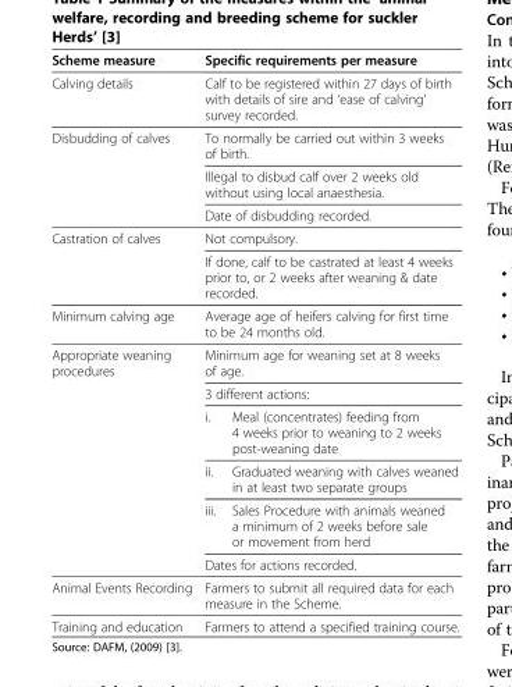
<table><thead><tr><td>Scheme measure</td><td colspan="2">Specific requirements per measure</td></tr></thead><tbody><tr><td>Calving details</td><td colspan="2">Calf to be registered within 27 days of birth with details of sire and ‘ease of calving’ survey recorded.</td></tr><tr><td rowspan="3">Disbudding of calves</td><td colspan="2">To normally be carried out within 3 weeks of birth.</td></tr><tr><td colspan="2">Illegal to disbud calf over 2 weeks old without using local anaesthesia.</td></tr><tr><td colspan="2">Date of disbudding recorded.</td></tr><tr><td rowspan="2">Castration of calves</td><td colspan="2">Not compulsory.</td></tr><tr><td colspan="2">If done, calf to be castrated at least 4 weeks prior to, or 2 weeks after weaning &amp; date recorded.</td></tr><tr><td>Minimum calving age</td><td colspan="2">Average age of heifers calving for first time to be 24 months old.</td></tr><tr><td rowspan="6">Appropriate weaning procedures</td><td colspan="2">Minimum age for weaning set at 8 weeks of age.</td></tr><tr><td colspan="2">3 different actions:</td></tr><tr><td>i.</td><td>Meal (concentrates) feeding from 4 weeks prior to weaning to 2 weeks post-weaning date</td></tr><tr><td>ii.</td><td>Graduated weaning with calves weaned in at least two separate groups</td></tr><tr><td>iii.</td><td>Sales Procedure with animals weaned a minimum of 2 weeks before sale or movement from herd</td></tr><tr><td colspan="2">Dates for actions recorded.</td></tr><tr><td>Animal Events Recording</td><td colspan="2">Farmers to submit all required data for each measure in the Scheme.</td></tr><tr><td>Training and education</td><td colspan="2">Farmers to attend a specified training course.</td></tr></tbody></table>